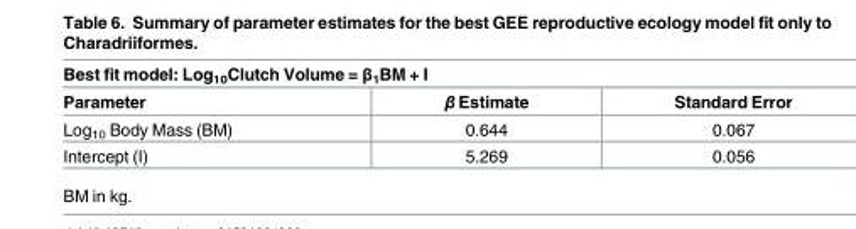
<table><thead><tr><td colspan="3">Best fit model: Log<sub>10</sub>Clutch Volume = β<sub>1</sub>BM + I</td></tr><tr><td>Parameter</td><td>β Estimate</td><td>Standard Error</td></tr></thead><tbody><tr><td>Log<sub>10</sub> Body Mass (BM)</td><td>0.644</td><td>0.067</td></tr><tr><td>Intercept (I)</td><td>5.269</td><td>0.056</td></tr></tbody></table>